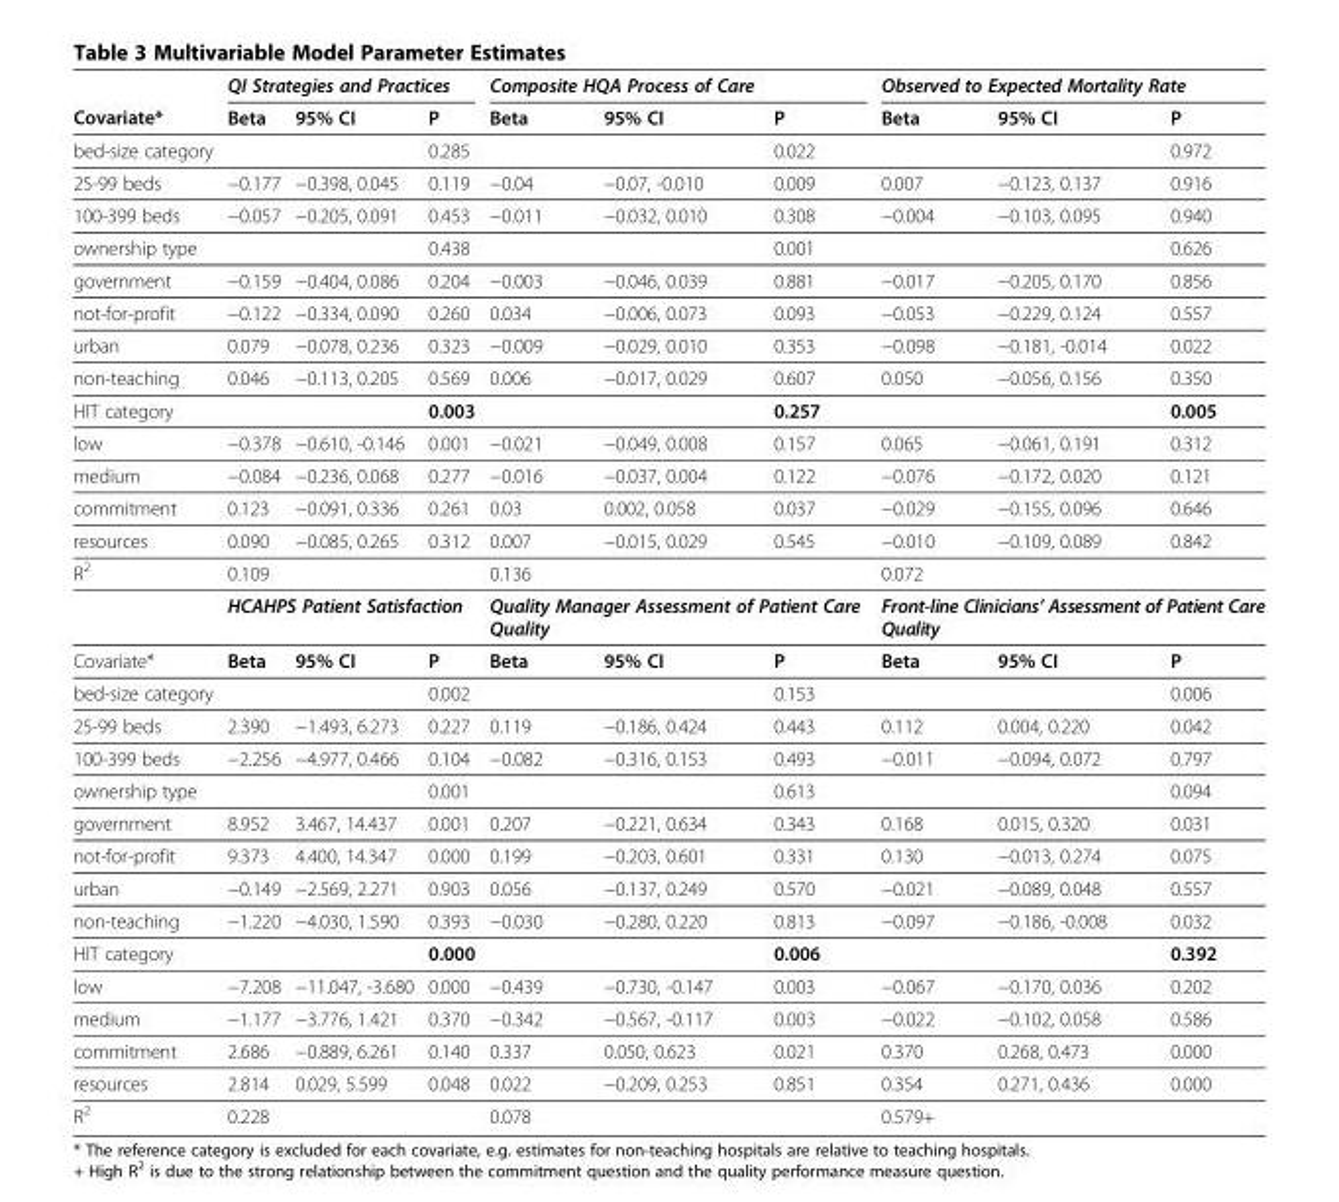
<table><thead><tr><td rowspan="2">Covariate*</td><td colspan="3">QI Strategies and Practices</td><td colspan="3">Composite HQA Process of Care</td><td colspan="3">Observed to Expected Mortality Rate</td></tr><tr><td>Beta</td><td>95% CI</td><td>P</td><td>Beta</td><td>95% CI</td><td>P</td><td>Beta</td><td>95% CI</td><td>P</td></tr></thead><tbody><tr><td>bed-size category</td><td></td><td></td><td>0.285</td><td></td><td></td><td>0.022</td><td></td><td></td><td>0.972</td></tr><tr><td>25-99 beds</td><td>−0.177</td><td>−0.398, 0.045</td><td>0.119</td><td>−0.04</td><td>−0.07, -0.010</td><td>0.009</td><td>0.007</td><td>−0.123, 0.137</td><td>0.916</td></tr><tr><td>100-399 beds</td><td>−0.057</td><td>−0.205, 0.091</td><td>0.453</td><td>−0.011</td><td>−0.032, 0.010</td><td>0.308</td><td>−0.004</td><td>−0.103, 0.095</td><td>0.940</td></tr><tr><td>ownership type</td><td></td><td></td><td>0.438</td><td></td><td></td><td>0.001</td><td></td><td></td><td>0.626</td></tr><tr><td>government</td><td>−0.159</td><td>−0.404, 0.086</td><td>0.204</td><td>−0.003</td><td>−0.046, 0.039</td><td>0.881</td><td>−0.017</td><td>−0.205, 0.170</td><td>0.856</td></tr><tr><td>not-for-profit</td><td>−0.122</td><td>−0.334, 0.090</td><td>0.260</td><td>0.034</td><td>−0.006, 0.073</td><td>0.093</td><td>−0.053</td><td>−0.229, 0.124</td><td>0.557</td></tr><tr><td>urban</td><td>0.079</td><td>−0.078, 0.236</td><td>0.323</td><td>−0.009</td><td>−0.029, 0.010</td><td>0.353</td><td>−0.098</td><td>−0.181, -0.014</td><td>0.022</td></tr><tr><td>non-teaching</td><td>0.046</td><td>−0.113, 0.205</td><td>0.569</td><td>0.006</td><td>−0.017, 0.029</td><td>0.607</td><td>0.050</td><td>−0.056, 0.156</td><td>0.350</td></tr><tr><td>HIT category</td><td></td><td></td><td>0.003</td><td></td><td></td><td>0.257</td><td></td><td></td><td>0.005</td></tr><tr><td>low</td><td>−0.378</td><td>−0.610, -0.146</td><td>0.001</td><td>−0.021</td><td>−0.049, 0.008</td><td>0.157</td><td>0.065</td><td>−0.061, 0.191</td><td>0.312</td></tr><tr><td>medium</td><td>−0.084</td><td>−0.236, 0.068</td><td>0.277</td><td>−0.016</td><td>−0.037, 0.004</td><td>0.122</td><td>−0.076</td><td>−0.172, 0.020</td><td>0.121</td></tr><tr><td>commitment</td><td>0.123</td><td>−0.091, 0.336</td><td>0.261</td><td>0.03</td><td>0.002, 0.058</td><td>0.037</td><td>−0.029</td><td>−0.155, 0.096</td><td>0.646</td></tr><tr><td>resources</td><td>0.090</td><td>−0.085, 0.265</td><td>0.312</td><td>0.007</td><td>−0.015, 0.029</td><td>0.545</td><td>−0.010</td><td>−0.109, 0.089</td><td>0.842</td></tr><tr><td rowspan="2">R<sup>2</sup></td><td>0.109</td><td></td><td></td><td>0.136</td><td></td><td></td><td>0.072</td><td></td><td></td></tr><tr><td colspan="3">HCAHPS Patient Satisfaction</td><td colspan="3">Quality Manager Assessment of Patient Care Quality</td><td colspan="3">Front-line Clinicians’ Assessment of Patient Care Quality</td></tr><tr><td>Covariate*</td><td>Beta</td><td>95% CI</td><td>P</td><td>Beta</td><td>95% CI</td><td>P</td><td>Beta</td><td>95% CI</td><td>P</td></tr><tr><td>bed-size category</td><td></td><td></td><td>0.002</td><td></td><td></td><td>0.153</td><td></td><td></td><td>0.006</td></tr><tr><td>25-99 beds</td><td>2.390</td><td>−1.493, 6.273</td><td>0.227</td><td>0.119</td><td>−0.186, 0.424</td><td>0.443</td><td>0.112</td><td>0.004, 0.220</td><td>0.042</td></tr><tr><td>100-399 beds</td><td>−2.256</td><td>−4.977, 0.466</td><td>0.104</td><td>−0.082</td><td>−0.316, 0.153</td><td>0.493</td><td>−0.011</td><td>−0.094, 0.072</td><td>0.797</td></tr><tr><td>ownership type</td><td></td><td></td><td>0.001</td><td></td><td></td><td>0.613</td><td></td><td></td><td>0.094</td></tr><tr><td>government</td><td>8.952</td><td>3.467, 14.437</td><td>0.001</td><td>0.207</td><td>−0.221, 0.634</td><td>0.343</td><td>0.168</td><td>0.015, 0.320</td><td>0.031</td></tr><tr><td>not-for-profit</td><td>9.373</td><td>4.400, 14.347</td><td>0.000</td><td>0.199</td><td>−0.203, 0.601</td><td>0.331</td><td>0.130</td><td>−0.013, 0.274</td><td>0.075</td></tr><tr><td>urban</td><td>−0.149</td><td>−2.569, 2.271</td><td>0.903</td><td>0.056</td><td>−0.137, 0.249</td><td>0.570</td><td>−0.021</td><td>−0.089, 0.048</td><td>0.557</td></tr><tr><td>non-teaching</td><td>−1.220</td><td>−4.030, 1.590</td><td>0.393</td><td>−0.030</td><td>−0.280, 0.220</td><td>0.813</td><td>−0.097</td><td>−0.186, -0.008</td><td>0.032</td></tr><tr><td>HIT category</td><td></td><td></td><td>0.000</td><td></td><td></td><td>0.006</td><td></td><td></td><td>0.392</td></tr><tr><td>low</td><td>−7.208</td><td>−11.047, -3.680</td><td>0.000</td><td>−0.439</td><td>−0.730, -0.147</td><td>0.003</td><td>−0.067</td><td>−0.170, 0.036</td><td>0.202</td></tr><tr><td>medium</td><td>−1.177</td><td>−3.776, 1.421</td><td>0.370</td><td>−0.342</td><td>−0.567, -0.117</td><td>0.003</td><td>−0.022</td><td>−0.102, 0.058</td><td>0.586</td></tr><tr><td>commitment</td><td>2.686</td><td>−0.889, 6.261</td><td>0.140</td><td>0.337</td><td>0.050, 0.623</td><td>0.021</td><td>0.370</td><td>0.268, 0.473</td><td>0.000</td></tr><tr><td>resources</td><td>2.814</td><td>0.029, 5.599</td><td>0.048</td><td>0.022</td><td>−0.209, 0.253</td><td>0.851</td><td>0.354</td><td>0.271, 0.436</td><td>0.000</td></tr><tr><td>R<sup>2</sup></td><td>0.228</td><td></td><td></td><td>0.078</td><td></td><td></td><td>0.579+</td><td></td><td></td></tr></tbody></table>